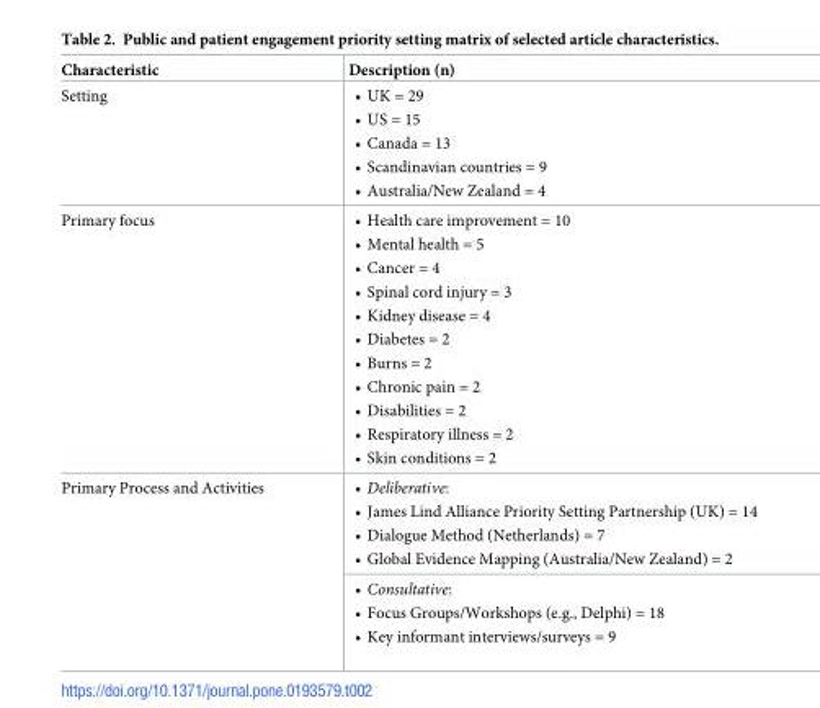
<table><thead><tr><td>Characteristic</td><td>Description (n)</td></tr></thead><tbody><tr><td>Setting</td><td>• UK = 29 • US = 15 • Canada = 13 • Scandinavian countries = 9 • Australia/New Zealand = 4</td></tr><tr><td>Primary focus</td><td>• Health care improvement = 10 • Mental health = 5 • Cancer = 4 • Spinal cord injury = 3 • Kidney disease = 4 • Diabetes = 2 • Burns = 2 • Chronic pain = 2 • Disabilities = 2 • Respiratory illness = 2 • Skin conditions = 2</td></tr><tr><td rowspan="2">Primary Process and Activities</td><td>• Deliberative: • James Lind Alliance Priority Setting Partnership (UK) = 14 • Dialogue Method (Netherlands) = 7 • Global Evidence Mapping (Australia/New Zealand) = 2</td></tr><tr><td>• Consultative: • Focus Groups/Workshops (e.g., Delphi) = 18 • Key informant interviews/surveys = 9</td></tr></tbody></table>